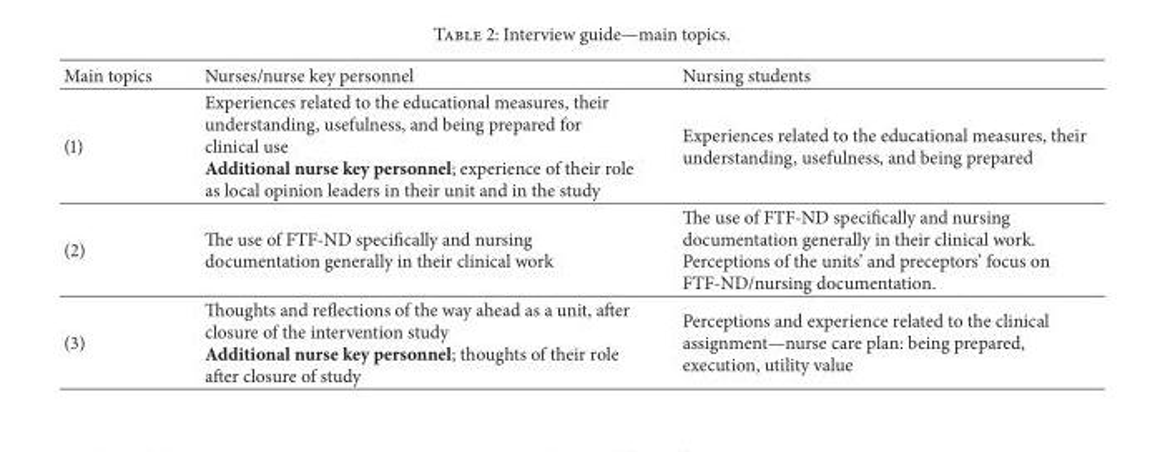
<table><thead><tr><td>Main topics</td><td>Nurses/nurse key personnel</td><td>Nursing students</td></tr></thead><tbody><tr><td>(1)</td><td>Experiences related to the educational measures, their understanding, usefulness, and being prepared for clinical use Additional nurse key personnel; experience of their role as local opinion leaders in their unit and in the study</td><td>Experiences related to the educational measures, their understanding, usefulness, and being prepared</td></tr><tr><td>(2)</td><td>The use of FTF-ND specifically and nursing documentation generally in their clinical work</td><td>The use of FTF-ND specifically and nursing documentation generally in their clinical work. Perceptions of the units’ and preceptors’ focus on FTF-ND/nursing documentation.</td></tr><tr><td>(3)</td><td>Thoughts and reflections of the way ahead as a unit, after closure of the intervention study Additional nurse key personnel; thoughts of their role after closure of study</td><td>Perceptions and experience related to the clinical assignment—nurse care plan: being prepared, execution, utility value</td></tr></tbody></table>